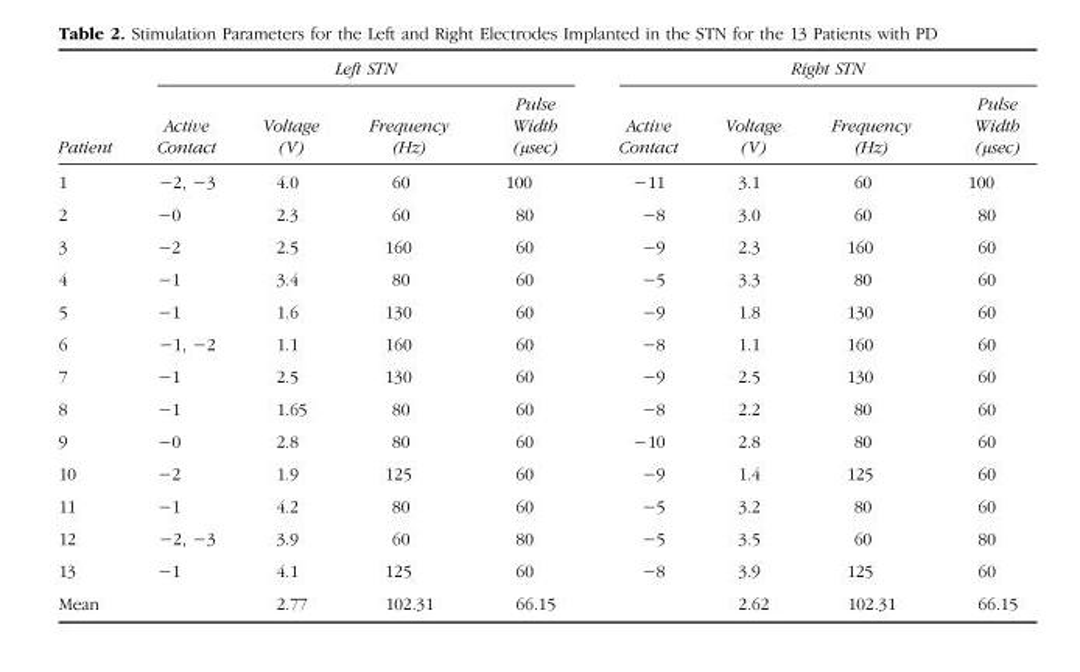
<table><thead><tr><td rowspan="2">Patient</td><td colspan="4">Left STN</td><td colspan="4">Right STN</td></tr><tr><td>Active Contact</td><td>Voltage (V)</td><td>Frequency (Hz)</td><td>Pulse Width (μsec)</td><td>Active Contact</td><td>Voltage (V)</td><td>Frequency (Hz)</td><td>Pulse Width (μsec)</td></tr></thead><tbody><tr><td>1</td><td>−2, −3</td><td>4.0</td><td>60</td><td>100</td><td>−11</td><td>3.1</td><td>60</td><td>100</td></tr><tr><td>2</td><td>−0</td><td>2.3</td><td>60</td><td>80</td><td>−8</td><td>3.0</td><td>60</td><td>80</td></tr><tr><td>3</td><td>−2</td><td>2.5</td><td>160</td><td>60</td><td>−9</td><td>2.3</td><td>160</td><td>60</td></tr><tr><td>4</td><td>−1</td><td>3.4</td><td>80</td><td>60</td><td>−5</td><td>3.3</td><td>80</td><td>60</td></tr><tr><td>5</td><td>−1</td><td>1.6</td><td>130</td><td>60</td><td>−9</td><td>1.8</td><td>130</td><td>60</td></tr><tr><td>6</td><td>−1, −2</td><td>1.1</td><td>160</td><td>60</td><td>−8</td><td>1.1</td><td>160</td><td>60</td></tr><tr><td>7</td><td>−1</td><td>2.5</td><td>130</td><td>60</td><td>−9</td><td>2.5</td><td>130</td><td>60</td></tr><tr><td>8</td><td>−1</td><td>1.65</td><td>80</td><td>60</td><td>−8</td><td>2.2</td><td>80</td><td>60</td></tr><tr><td>9</td><td>−0</td><td>2.8</td><td>80</td><td>60</td><td>−10</td><td>2.8</td><td>80</td><td>60</td></tr><tr><td>10</td><td>−2</td><td>1.9</td><td>125</td><td>60</td><td>−9</td><td>1.4</td><td>125</td><td>60</td></tr><tr><td>11</td><td>−1</td><td>4.2</td><td>80</td><td>60</td><td>−5</td><td>3.2</td><td>80</td><td>60</td></tr><tr><td>12</td><td>−2, −3</td><td>3.9</td><td>60</td><td>80</td><td>−5</td><td>3.5</td><td>60</td><td>80</td></tr><tr><td>13</td><td>−1</td><td>4.1</td><td>125</td><td>60</td><td>−8</td><td>3.9</td><td>125</td><td>60</td></tr><tr><td>Mean</td><td></td><td>2.77</td><td>102.31</td><td>66.15</td><td></td><td>2.62</td><td>102.31</td><td>66.15</td></tr></tbody></table>